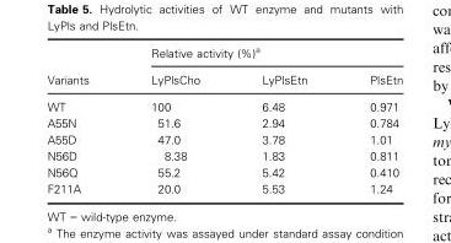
<table><thead><tr><td rowspan="2">Variants</td><td colspan="3">Relative activity (%)<sup>a</sup></td></tr><tr><td>LyPlsCho</td><td>LyPlsEtn</td><td>PlsEtn</td></tr></thead><tbody><tr><td>WT</td><td>100</td><td>6.48</td><td>0.971</td></tr><tr><td>A55N</td><td>51.6</td><td>2.94</td><td>0.784</td></tr><tr><td>A55D</td><td>47.0</td><td>3.78</td><td>1.01</td></tr><tr><td>N56D</td><td>8.38</td><td>1.83</td><td>0.811</td></tr><tr><td>N56Q</td><td>55.2</td><td>5.42</td><td>0.410</td></tr><tr><td>F211A</td><td>20.0</td><td>5.53</td><td>1.24</td></tr></tbody></table>